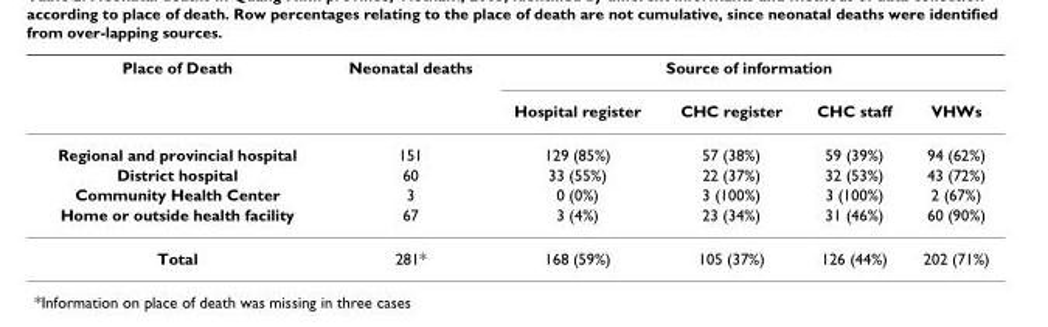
<table><thead><tr><td rowspan="2">Place of Death</td><td rowspan="2">Neonatal deaths</td><td colspan="4">Source of information</td></tr><tr><td>Hospital register</td><td>CHC register</td><td>CHC staff</td><td>VHWs</td></tr></thead><tbody><tr><td>Regional and provincial hospital</td><td>151</td><td>129 (85%)</td><td>57 (38%)</td><td>59 (39%)</td><td>94 (62%)</td></tr><tr><td>District hospital</td><td>60</td><td>33 (55%)</td><td>22 (37%)</td><td>32 (53%)</td><td>43 (72%)</td></tr><tr><td>Community Health Center</td><td>3</td><td>0 (0%)</td><td>3 (100%)</td><td>3 (100%)</td><td>2 (67%)</td></tr><tr><td>Home or outside health facility</td><td>67</td><td>3 (4%)</td><td>23 (34%)</td><td>31 (46%)</td><td>60 (90%)</td></tr><tr><td>Total</td><td>281*</td><td>168 (59%)</td><td>105 (37%)</td><td>126 (44%)</td><td>202 (71%)</td></tr></tbody></table>